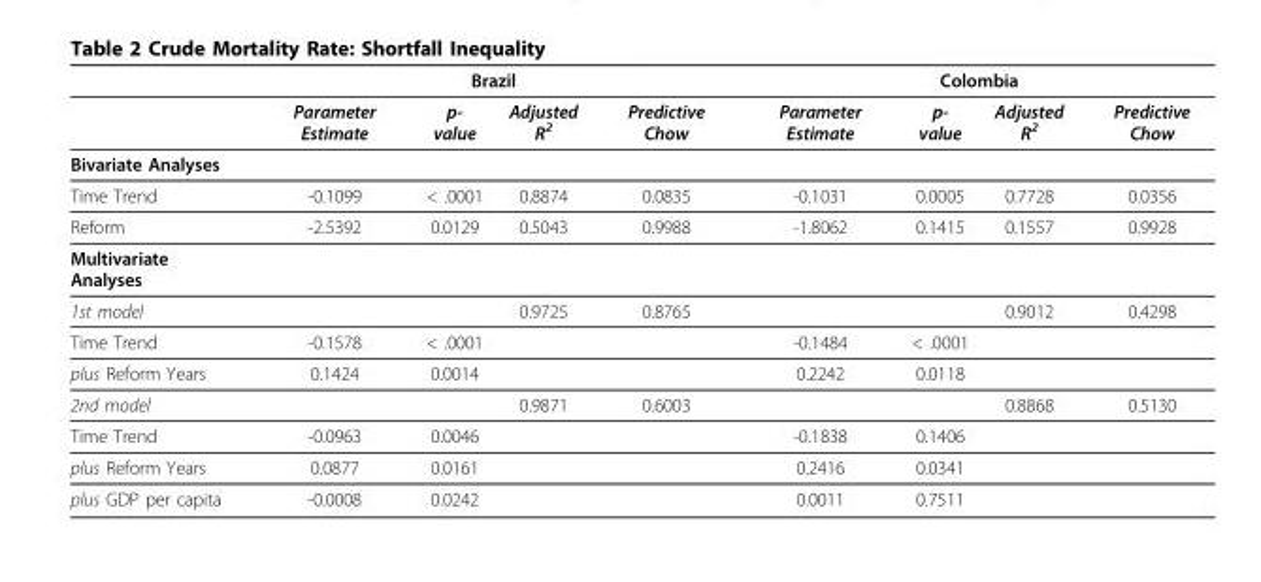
<table><thead><tr><td rowspan="2"></td><td colspan="4">Brazil</td><td colspan="4">Colombia</td></tr><tr><td>Parameter Estimate</td><td>p- value</td><td>Adjusted R2</td><td>Predictive Chow</td><td>Parameter Estimate</td><td>p- value</td><td>Adjusted R2</td><td>Predictive Chow</td></tr></thead><tbody><tr><td colspan="9">Bivariate Analyses</td></tr><tr><td>Time Trend</td><td>-0.1099</td><td>&lt; .0001</td><td>0.8874</td><td>0.0835</td><td>-0.1031</td><td>0.0005</td><td>0.7728</td><td>0.0356</td></tr><tr><td>Reform</td><td>-2.5392</td><td>0.0129</td><td>0.5043</td><td>0.9988</td><td>-1.8062</td><td>0.1415</td><td>0.1557</td><td>0.9928</td></tr><tr><td colspan="9">Multivariate Analyses</td></tr><tr><td>1st model</td><td></td><td></td><td>0.9725</td><td>0.8765</td><td></td><td></td><td>0.9012</td><td>0.4298</td></tr><tr><td>Time Trend</td><td>-0.1578</td><td>&lt; .0001</td><td></td><td></td><td>-0.1484</td><td>&lt; .0001</td><td></td><td></td></tr><tr><td>plus Reform Years</td><td>0.1424</td><td>0.0014</td><td></td><td></td><td>0.2242</td><td>0.0118</td><td></td><td></td></tr><tr><td>2nd model</td><td></td><td></td><td>0.9871</td><td>0.6003</td><td></td><td></td><td>0.8868</td><td>0.5130</td></tr><tr><td>Time Trend</td><td>-0.0963</td><td>0.0046</td><td></td><td></td><td>-0.1838</td><td>0.1406</td><td></td><td></td></tr><tr><td>plus Reform Years</td><td>0.0877</td><td>0.0161</td><td></td><td></td><td>0.2416</td><td>0.0341</td><td></td><td></td></tr><tr><td>plus GDP per capita</td><td>-0.0008</td><td>0.0242</td><td></td><td></td><td>0.0011</td><td>0.7511</td><td></td><td></td></tr></tbody></table>